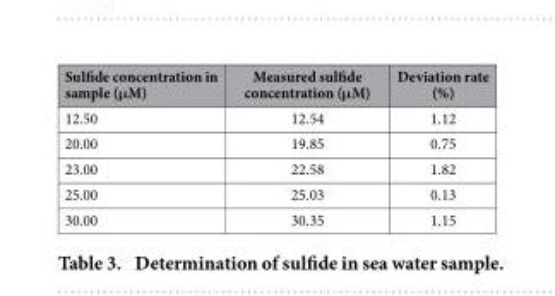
<table><thead><tr><td>Sulfide concentration in sample (μ M)</td><td>Measured sulfide concentration (μ M)</td><td>Deviation rate (%)</td></tr></thead><tbody><tr><td>12.50</td><td>12.54</td><td>1.12</td></tr><tr><td>20.00</td><td>19.85</td><td>0.75</td></tr><tr><td>23.00</td><td>22.58</td><td>1.82</td></tr><tr><td>25.00</td><td>25.03</td><td>0.13</td></tr><tr><td>30.00</td><td>30.35</td><td>1.15</td></tr></tbody></table>